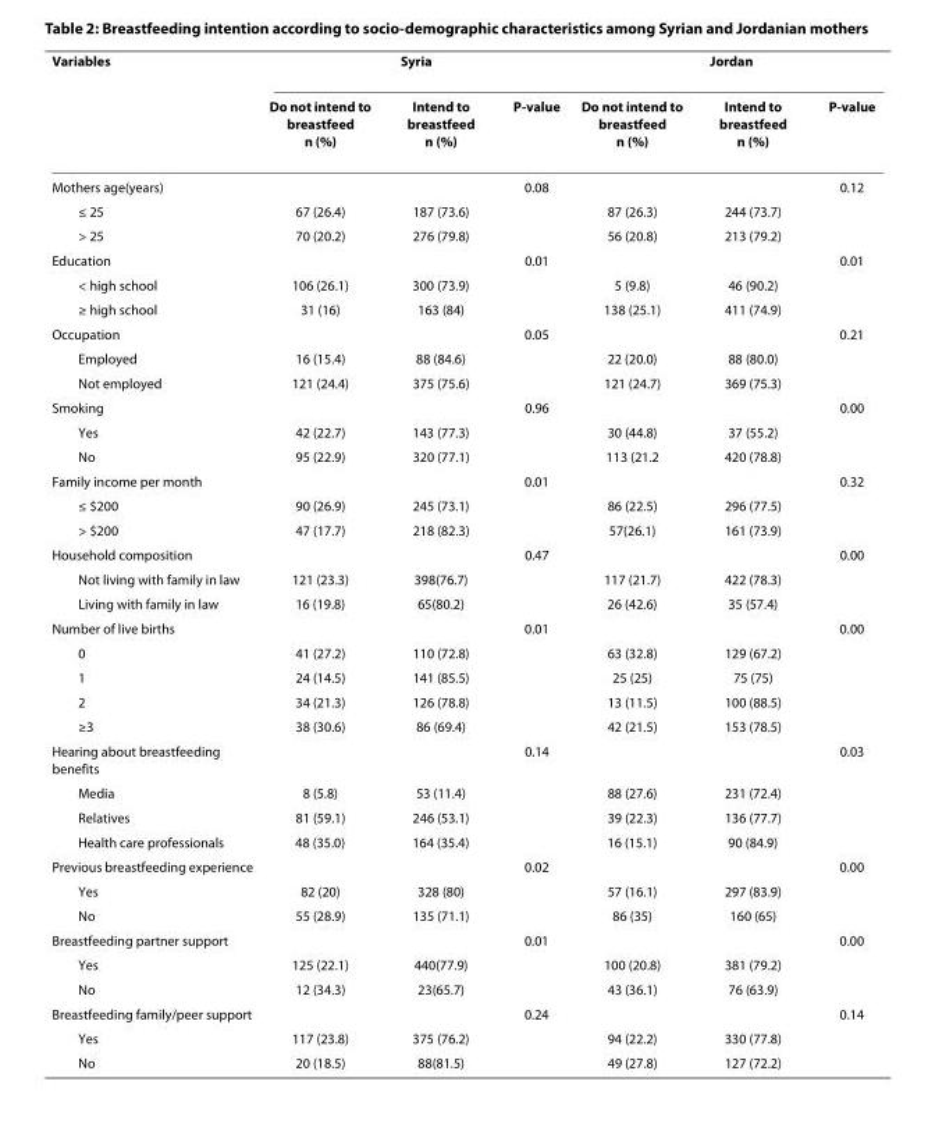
<table><thead><tr><td rowspan="2">Variables</td><td colspan="3">Syria</td><td colspan="3">Jordan</td></tr><tr><td>Do not intend to breastfeed n (%)</td><td>Intend to breastfeed n (%)</td><td>P-value</td><td>Do not intend to breastfeed n (%)</td><td>Intend to breastfeed n (%)</td><td>P-value</td></tr></thead><tbody><tr><td>Mothers age(years)</td><td></td><td></td><td>0.08</td><td></td><td></td><td>0.12</td></tr><tr><td>≤ 25</td><td>67 (26.4)</td><td>187 (73.6)</td><td></td><td>87 (26.3)</td><td>244 (73.7)</td><td></td></tr><tr><td>&gt; 25</td><td>70 (20.2)</td><td>276 (79.8)</td><td></td><td>56 (20.8)</td><td>213 (79.2)</td><td></td></tr><tr><td>Education</td><td></td><td></td><td>0.01</td><td></td><td></td><td>0.01</td></tr><tr><td>&lt; high school</td><td>106 (26.1)</td><td>300 (73.9)</td><td></td><td>5 (9.8)</td><td>46 (90.2)</td><td></td></tr><tr><td>≥ high school</td><td>31 (16)</td><td>163 (84)</td><td></td><td>138 (25.1)</td><td>411 (74.9)</td><td></td></tr><tr><td>Occupation</td><td></td><td></td><td>0.05</td><td></td><td></td><td>0.21</td></tr><tr><td>Employed</td><td>16 (15.4)</td><td>88 (84.6)</td><td></td><td>22 (20.0)</td><td>88 (80.0)</td><td></td></tr><tr><td>Not employed</td><td>121 (24.4)</td><td>375 (75.6)</td><td></td><td>121 (24.7)</td><td>369 (75.3)</td><td></td></tr><tr><td>Smoking</td><td></td><td></td><td>0.96</td><td></td><td></td><td>0.00</td></tr><tr><td>Yes</td><td>42 (22.7)</td><td>143 (77.3)</td><td></td><td>30 (44.8)</td><td>37 (55.2)</td><td></td></tr><tr><td>No</td><td>95 (22.9)</td><td>320 (77.1)</td><td></td><td>113 (21.2</td><td>420 (78.8)</td><td></td></tr><tr><td>Family income per month</td><td></td><td></td><td>0.01</td><td></td><td></td><td>0.32</td></tr><tr><td>≤ $200</td><td>90 (26.9)</td><td>245 (73.1)</td><td></td><td>86 (22.5)</td><td>296 (77.5)</td><td></td></tr><tr><td>&gt; $200</td><td>47 (17.7)</td><td>218 (82.3)</td><td></td><td>57(26.1)</td><td>161 (73.9)</td><td></td></tr><tr><td>Household composition</td><td></td><td></td><td>0.47</td><td></td><td></td><td>0.00</td></tr><tr><td>Not living with family in law</td><td>121 (23.3)</td><td>398(76.7)</td><td></td><td>117 (21.7)</td><td>422 (78.3)</td><td></td></tr><tr><td>Living with family in law</td><td>16 (19.8)</td><td>65(80.2)</td><td></td><td>26 (42.6)</td><td>35 (57.4)</td><td></td></tr><tr><td>Number of live births</td><td></td><td></td><td>0.01</td><td></td><td></td><td>0.00</td></tr><tr><td>0</td><td>41 (27.2)</td><td>110 (72.8)</td><td></td><td>63 (32.8)</td><td>129 (67.2)</td><td></td></tr><tr><td>1</td><td>24 (14.5)</td><td>141 (85.5)</td><td></td><td>25 (25)</td><td>75 (75)</td><td></td></tr><tr><td>2</td><td>34 (21.3)</td><td>126 (78.8)</td><td></td><td>13 (11.5)</td><td>100 (88.5)</td><td></td></tr><tr><td>≥3</td><td>38 (30.6)</td><td>86 (69.4)</td><td></td><td>42 (21.5)</td><td>153 (78.5)</td><td></td></tr><tr><td>Hearing about breastfeeding benefits</td><td></td><td></td><td>0.14</td><td></td><td></td><td>0.03</td></tr><tr><td>Media</td><td>8 (5.8)</td><td>53 (11.4)</td><td></td><td>88 (27.6)</td><td>231 (72.4)</td><td></td></tr><tr><td>Relatives</td><td>81 (59.1)</td><td>246 (53.1)</td><td></td><td>39 (22.3)</td><td>136 (77.7)</td><td></td></tr><tr><td>Health care professionals</td><td>48 (35.0)</td><td>164 (35.4)</td><td></td><td>16 (15.1)</td><td>90 (84.9)</td><td></td></tr><tr><td>Previous breastfeeding experience</td><td></td><td></td><td>0.02</td><td></td><td></td><td>0.00</td></tr><tr><td>Yes</td><td>82 (20)</td><td>328 (80)</td><td></td><td>57 (16.1)</td><td>297 (83.9)</td><td></td></tr><tr><td>No</td><td>55 (28.9)</td><td>135 (71.1)</td><td></td><td>86 (35)</td><td>160 (65)</td><td></td></tr><tr><td>Breastfeeding partner support</td><td></td><td></td><td>0.01</td><td></td><td></td><td>0.00</td></tr><tr><td>Yes</td><td>125 (22.1)</td><td>440(77.9)</td><td></td><td>100 (20.8)</td><td>381 (79.2)</td><td></td></tr><tr><td>No</td><td>12 (34.3)</td><td>23(65.7)</td><td></td><td>43 (36.1)</td><td>76 (63.9)</td><td></td></tr><tr><td>Breastfeeding family/peer support</td><td></td><td></td><td>0.24</td><td></td><td></td><td>0.14</td></tr><tr><td>Yes</td><td>117 (23.8)</td><td>375 (76.2)</td><td></td><td>94 (22.2)</td><td>330 (77.8)</td><td></td></tr><tr><td>No</td><td>20 (18.5)</td><td>88(81.5)</td><td></td><td>49 (27.8)</td><td>127 (72.2)</td><td></td></tr></tbody></table>